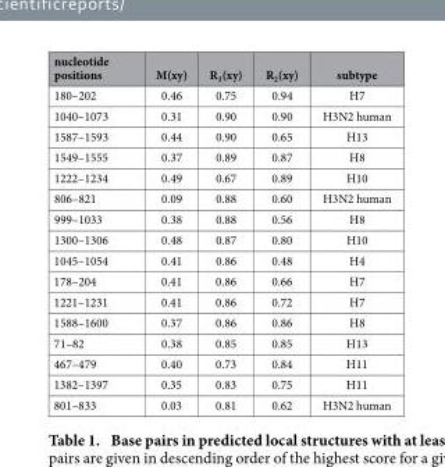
<table><thead><tr><td>nucleotide positions</td><td>M(xy)</td><td>R<sub>1</sub>(xy)</td><td>R<sub>2</sub>(xy)</td><td>subtype</td></tr></thead><tbody><tr><td>180–202</td><td>0.46</td><td>0.75</td><td>0.94</td><td>H7</td></tr><tr><td>1040–1073</td><td>0.31</td><td>0.90</td><td>0.90</td><td>H3N2 human</td></tr><tr><td>1587–1593</td><td>0.44</td><td>0.90</td><td>0.65</td><td>H13</td></tr><tr><td>1549–1555</td><td>0.37</td><td>0.89</td><td>0.87</td><td>H8</td></tr><tr><td>1222–1234</td><td>0.49</td><td>0.67</td><td>0.89</td><td>H10</td></tr><tr><td>806–821</td><td>0.09</td><td>0.88</td><td>0.60</td><td>H3N2 human</td></tr><tr><td>999–1033</td><td>0.38</td><td>0.88</td><td>0.56</td><td>H8</td></tr><tr><td>1300–1306</td><td>0.48</td><td>0.87</td><td>0.80</td><td>H10</td></tr><tr><td>1045–1054</td><td>0.41</td><td>0.86</td><td>0.48</td><td>H4</td></tr><tr><td>178–204</td><td>0.41</td><td>0.86</td><td>0.66</td><td>H7</td></tr><tr><td>1221–1231</td><td>0.41</td><td>0.86</td><td>0.72</td><td>H7</td></tr><tr><td>1588–1600</td><td>0.37</td><td>0.86</td><td>0.86</td><td>H8</td></tr><tr><td>71–82</td><td>0.38</td><td>0.85</td><td>0.85</td><td>H13</td></tr><tr><td>467–479</td><td>0.40</td><td>0.73</td><td>0.84</td><td>H11</td></tr><tr><td>1382–1397</td><td>0.35</td><td>0.83</td><td>0.75</td><td>H11</td></tr><tr><td>801–833</td><td>0.03</td><td>0.81</td><td>0.62</td><td>H3N2 human</td></tr></tbody></table>